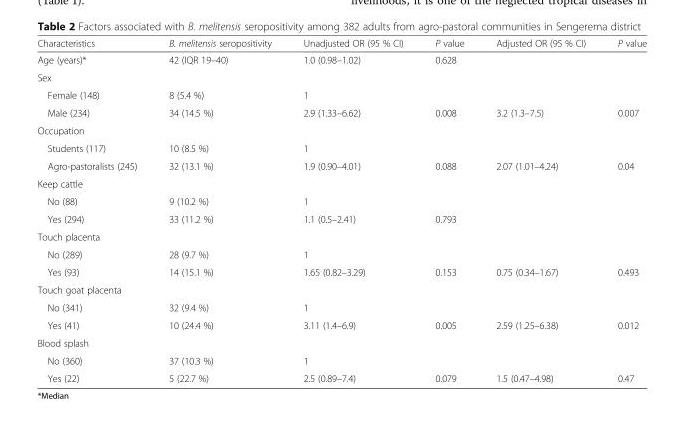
<table><thead><tr><td>Characteristics</td><td>B. melitensis seropositivity</td><td>Unadjusted OR (95 % CI)</td><td>P value</td><td>Adjusted OR (95 % CI)</td><td>P value</td></tr></thead><tbody><tr><td>Age (years)*</td><td>42 (IQR 19–40)</td><td>1.0 (0.98–1.02)</td><td>0.628</td><td></td><td></td></tr><tr><td colspan="6">Sex</td></tr><tr><td>Female (148)</td><td>8 (5.4 %)</td><td>1</td><td></td><td></td><td></td></tr><tr><td>Male (234)</td><td>34 (14.5 %)</td><td>2.9 (1.33–6.62)</td><td>0.008</td><td>3.2 (1.3–7.5)</td><td>0.007</td></tr><tr><td colspan="6">Occupation</td></tr><tr><td>Students (117)</td><td>10 (8.5 %)</td><td>1</td><td></td><td></td><td></td></tr><tr><td>Agro-pastoralists (245)</td><td>32 (13.1 %)</td><td>1.9 (0.90–4.01)</td><td>0.088</td><td>2.07 (1.01–4.24)</td><td>0.04</td></tr><tr><td colspan="6">Keep cattle</td></tr><tr><td>No (88)</td><td>9 (10.2 %)</td><td>1</td><td></td><td></td><td></td></tr><tr><td>Yes (294)</td><td>33 (11.2 %)</td><td>1.1 (0.5–2.41)</td><td>0.793</td><td></td><td></td></tr><tr><td colspan="6">Touch placenta</td></tr><tr><td>No (289)</td><td>28 (9.7 %)</td><td>1</td><td></td><td></td><td></td></tr><tr><td>Yes (93)</td><td>14 (15.1 %)</td><td>1.65 (0.82–3.29)</td><td>0.153</td><td>0.75 (0.34–1.67)</td><td>0.493</td></tr><tr><td colspan="6">Touch goat placenta</td></tr><tr><td>No (341)</td><td>32 (9.4 %)</td><td>1</td><td></td><td></td><td></td></tr><tr><td>Yes (41)</td><td>10 (24.4 %)</td><td>3.11 (1.4–6.9)</td><td>0.005</td><td>2.59 (1.25–6.38)</td><td>0.012</td></tr><tr><td colspan="6">Blood splash</td></tr><tr><td>No (360)</td><td>37 (10.3 %)</td><td>1</td><td></td><td></td><td></td></tr><tr><td>Yes (22)</td><td>5 (22.7 %)</td><td>2.5 (0.89–7.4)</td><td>0.079</td><td>1.5 (0.47–4.98)</td><td>0.47</td></tr></tbody></table>